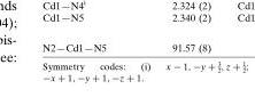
<table><tbody><tr><td>N2—Cd1—N5</td><td>91.57 (8)</td></tr></tbody></table>